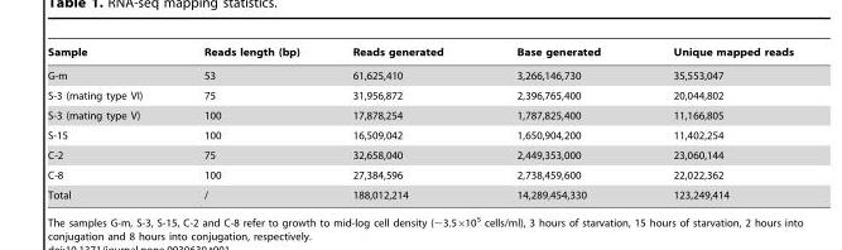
<table><thead><tr><td>Sample</td><td>Reads length (bp)</td><td>Reads generated</td><td>Base generated</td><td>Unique mapped reads</td></tr></thead><tbody><tr><td>G-m</td><td>53</td><td>61,625,410</td><td>3,266,146,730</td><td>35,553,047</td></tr><tr><td>S-3 (mating type VI)</td><td>75</td><td>31,956,872</td><td>2,396,765,400</td><td>20,044,802</td></tr><tr><td>S-3 (mating type V)</td><td>100</td><td>17,878,254</td><td>1,787,825,400</td><td>11,166,805</td></tr><tr><td>S-15</td><td>100</td><td>16,509,042</td><td>1,650,904,200</td><td>11,402,254</td></tr><tr><td>C-2</td><td>75</td><td>32,658,040</td><td>2,449,353,000</td><td>23,060,144</td></tr><tr><td>C-8</td><td>100</td><td>27,384,596</td><td>2,738,459,600</td><td>22,022,362</td></tr><tr><td>Total</td><td>/</td><td>188,012,214</td><td>14,289,454,330</td><td>123,249,414</td></tr></tbody></table>